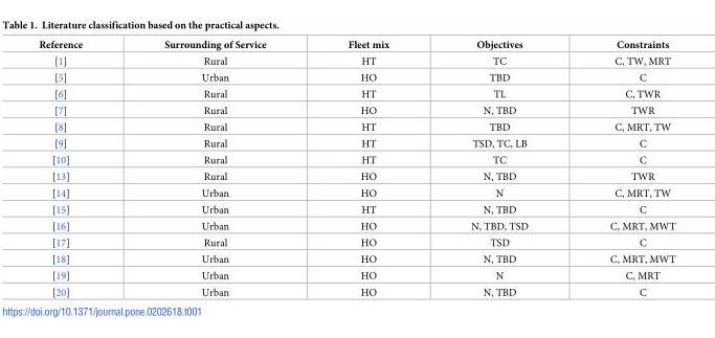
<table><thead><tr><td>Reference</td><td>Surrounding of Service</td><td>Fleet mix</td><td>Objectives</td><td>Constraints</td></tr></thead><tbody><tr><td>[1]</td><td>Rural</td><td>HT</td><td>TC</td><td>C, TW, MRT</td></tr><tr><td>[5]</td><td>Urban</td><td>HO</td><td>TBD</td><td>C</td></tr><tr><td>[6]</td><td>Rural</td><td>HT</td><td>TL</td><td>C, TWR</td></tr><tr><td>[7]</td><td>Rural</td><td>HO</td><td>N, TBD</td><td>TWR</td></tr><tr><td>[8]</td><td>Rural</td><td>HT</td><td>TBD</td><td>C, MRT, TW</td></tr><tr><td>[9]</td><td>Rural</td><td>HT</td><td>TSD, TC, LB</td><td>C</td></tr><tr><td>[10]</td><td>Rural</td><td>HT</td><td>TC</td><td>C</td></tr><tr><td>[13]</td><td>Rural</td><td>HO</td><td>N, TBD</td><td>TWR</td></tr><tr><td>[14]</td><td>Urban</td><td>HO</td><td>N</td><td>C, MRT, TW</td></tr><tr><td>[15]</td><td>Urban</td><td>HT</td><td>N, TBD</td><td>C</td></tr><tr><td>[16]</td><td>Urban</td><td>HO</td><td>N, TBD, TSD</td><td>C, MRT, MWT</td></tr><tr><td>[17]</td><td>Rural</td><td>HO</td><td>TSD</td><td>C</td></tr><tr><td>[18]</td><td>Urban</td><td>HO</td><td>N, TBD</td><td>C, MRT, MWT</td></tr><tr><td>[19]</td><td>Urban</td><td>HO</td><td>N</td><td>C, MRT</td></tr><tr><td>[20]</td><td>Urban</td><td>HO</td><td>N, TBD</td><td>C</td></tr></tbody></table>